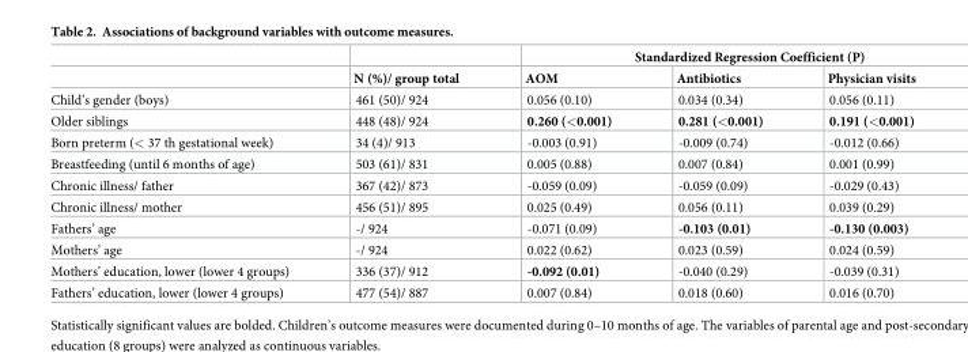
<table><thead><tr><td rowspan="2"></td><td rowspan="2">N (%)/ group total</td><td colspan="3">Standardized Regression Coefficient (P)</td></tr><tr><td>AOM</td><td>Antibiotics</td><td>Physician visits</td></tr></thead><tbody><tr><td>Child’s gender (boys)</td><td>461 (50)/ 924</td><td>0.056 (0.10)</td><td>0.034 (0.34)</td><td>0.056 (0.11)</td></tr><tr><td>Older siblings</td><td>448 (48)/ 924</td><td>0.260 (&lt;0.001)</td><td>0.281 (&lt;0.001)</td><td>0.191 (&lt;0.001)</td></tr><tr><td>Born preterm (&lt; 37 th gestational week)</td><td>34 (4)/ 913</td><td>-0.003 (0.91)</td><td>-0.009 (0.74)</td><td>-0.012 (0.66)</td></tr><tr><td>Breastfeeding (until 6 months of age)</td><td>503 (61)/ 831</td><td>0.005 (0.88)</td><td>0.007 (0.84)</td><td>0.001 (0.99)</td></tr><tr><td>Chronic illness/ father</td><td>367 (42)/ 873</td><td>-0.059 (0.09)</td><td>-0.059 (0.09)</td><td>-0.029 (0.43)</td></tr><tr><td>Chronic illness/ mother</td><td>456 (51)/ 895</td><td>0.025 (0.49)</td><td>0.056 (0.11)</td><td>0.039 (0.29)</td></tr><tr><td>Fathers’ age</td><td>-/ 924</td><td>-0.071 (0.09)</td><td>-0.103 (0.01)</td><td>-0.130 (0.003)</td></tr><tr><td>Mothers’ age</td><td>-/ 924</td><td>0.022 (0.62)</td><td>0.023 (0.59)</td><td>0.024 (0.59)</td></tr><tr><td>Mothers’ education, lower (lower 4 groups)</td><td>336 (37)/ 912</td><td>-0.092 (0.01)</td><td>-0.040 (0.29)</td><td>-0.039 (0.31)</td></tr><tr><td>Fathers’ education, lower (lower 4 groups)</td><td>477 (54)/ 887</td><td>0.007 (0.84)</td><td>0.018 (0.60)</td><td>0.016 (0.70)</td></tr></tbody></table>